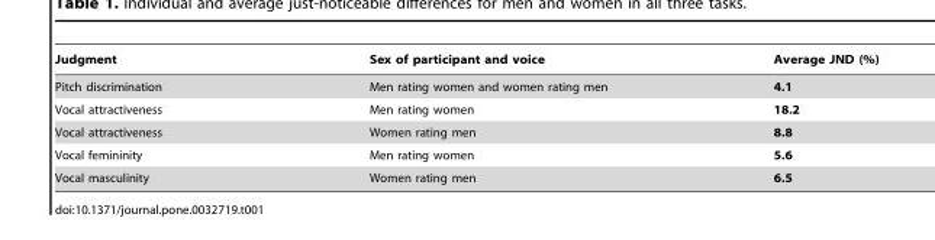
<table><thead><tr><td>Judgment</td><td>Sex of participant and voice</td><td>Average JND (%)</td></tr></thead><tbody><tr><td>Pitch discrimination</td><td>Men rating women and women rating men</td><td>4.1</td></tr><tr><td>Vocal attractiveness</td><td>Men rating women</td><td>18.2</td></tr><tr><td>Vocal attractiveness</td><td>Women rating men</td><td>8.8</td></tr><tr><td>Vocal femininity</td><td>Men rating women</td><td>5.6</td></tr><tr><td>Vocal masculinity</td><td>Women rating men</td><td>6.5</td></tr></tbody></table>